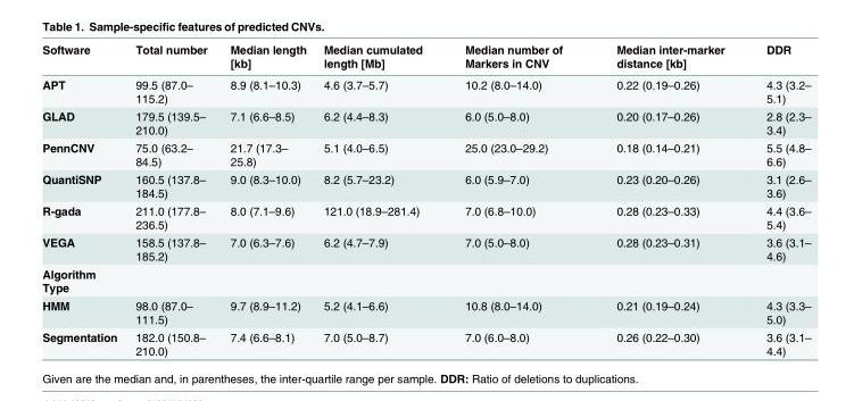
<table><thead><tr><td>Software</td><td>Total number</td><td>Median length [kb]</td><td>Median cumulated length [Mb]</td><td>Median number of Markers in CNV</td><td>Median inter-marker distance [kb]</td><td>DDR</td></tr></thead><tbody><tr><td>APT</td><td>99.5 (87.0– 115.2)</td><td>8.9 (8.1–10.3)</td><td>4.6 (3.7–5.7)</td><td>10.2 (8.0–14.0)</td><td>0.22 (0.19–0.26)</td><td>4.3 (3.2– 5.1)</td></tr><tr><td>GLAD</td><td>179.5 (139.5– 210.0)</td><td>7.1 (6.6–8.5)</td><td>6.2 (4.4–8.3)</td><td>6.0 (5.0–8.0)</td><td>0.20 (0.17–0.26)</td><td>2.8 (2.3– 3.4)</td></tr><tr><td>PennCNV</td><td>75.0 (63.2– 84.5)</td><td>21.7 (17.3– 25.8)</td><td>5.1 (4.0–6.5)</td><td>25.0 (23.0–29.2)</td><td>0.18 (0.14–0.21)</td><td>5.5 (4.8– 6.6)</td></tr><tr><td>QuantiSNP</td><td>160.5 (137.8– 184.5)</td><td>9.0 (8.3–10.0)</td><td>8.2 (5.7–23.2)</td><td>6.0 (5.9–7.0)</td><td>0.23 (0.20–0.26)</td><td>3.1 (2.6– 3.6)</td></tr><tr><td>R-gada</td><td>211.0 (177.8– 236.5)</td><td>8.0 (7.1–9.6)</td><td>121.0 (18.9–281.4)</td><td>7.0 (6.8–10.0)</td><td>0.28 (0.23–0.33)</td><td>4.4 (3.6– 5.4)</td></tr><tr><td>VEGA</td><td>158.5 (137.8– 185.2)</td><td>7.0 (6.3–7.6)</td><td>6.2 (4.7–7.9)</td><td>7.0 (5.0–8.0)</td><td>0.28 (0.23–0.31)</td><td>3.6 (3.1– 4.6)</td></tr><tr><td colspan="7">Algorithm Type</td></tr><tr><td>HMM</td><td>98.0 (87.0– 111.5)</td><td>9.7 (8.9–11.2)</td><td>5.2 (4.1–6.6)</td><td>10.8 (8.0–14.0)</td><td>0.21 (0.19–0.24)</td><td>4.3 (3.3– 5.0)</td></tr><tr><td>Segmentation</td><td>182.0 (150.8– 210.0)</td><td>7.4 (6.6–8.1)</td><td>7.0 (5.0–8.7)</td><td>7.0 (6.0–8.0)</td><td>0.26 (0.22–0.30)</td><td>3.6 (3.1– 4.4)</td></tr></tbody></table>